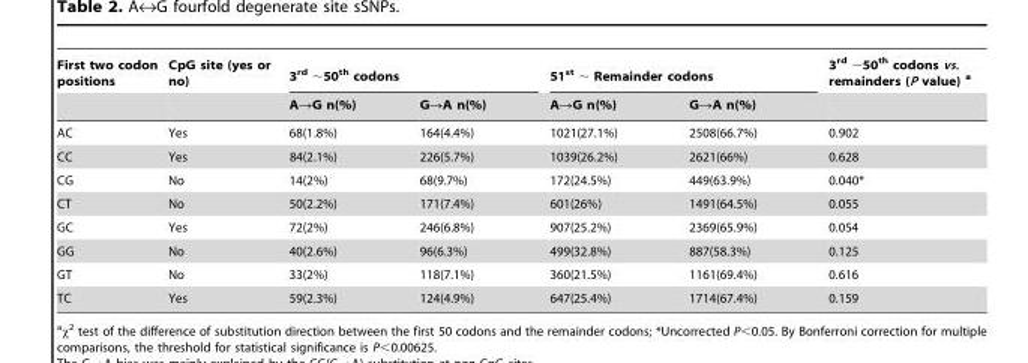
<table><thead><tr><td rowspan="2">First two codon positions</td><td rowspan="2">CpG site (yes or no)</td><td colspan="2">3<sup>rd</sup> ∼50<sup>th</sup> codons</td><td colspan="2">51<sup>st</sup> ∼ Remainder codons</td><td rowspan="2">3<sup>rd</sup> ∼50<sup>th</sup> codons vs. remainders (P value) a</td></tr><tr><td>A→G n(%)</td><td>G→A n(%)</td><td>A→G n(%)</td><td>G→A n(%)</td></tr></thead><tbody><tr><td>AC</td><td>Yes</td><td>68(1.8%)</td><td>164(4.4%)</td><td>1021(27.1%)</td><td>2508(66.7%)</td><td>0.902</td></tr><tr><td>CC</td><td>Yes</td><td>84(2.1%)</td><td>226(5.7%)</td><td>1039(26.2%)</td><td>2621(66%)</td><td>0.628</td></tr><tr><td>CG</td><td>No</td><td>14(2%)</td><td>68(9.7%)</td><td>172(24.5%)</td><td>449(63.9%)</td><td>0.040*</td></tr><tr><td>CT</td><td>No</td><td>50(2.2%)</td><td>171(7.4%)</td><td>601(26%)</td><td>1491(64.5%)</td><td>0.055</td></tr><tr><td>GC</td><td>Yes</td><td>72(2%)</td><td>246(6.8%)</td><td>907(25.2%)</td><td>2369(65.9%)</td><td>0.054</td></tr><tr><td>GG</td><td>No</td><td>40(2.6%)</td><td>96(6.3%)</td><td>499(32.8%)</td><td>887(58.3%)</td><td>0.125</td></tr><tr><td>GT</td><td>No</td><td>33(2%)</td><td>118(7.1%)</td><td>360(21.5%)</td><td>1161(69.4%)</td><td>0.616</td></tr><tr><td>TC</td><td>Yes</td><td>59(2.3%)</td><td>124(4.9%)</td><td>647(25.4%)</td><td>1714(67.4%)</td><td>0.159</td></tr></tbody></table>